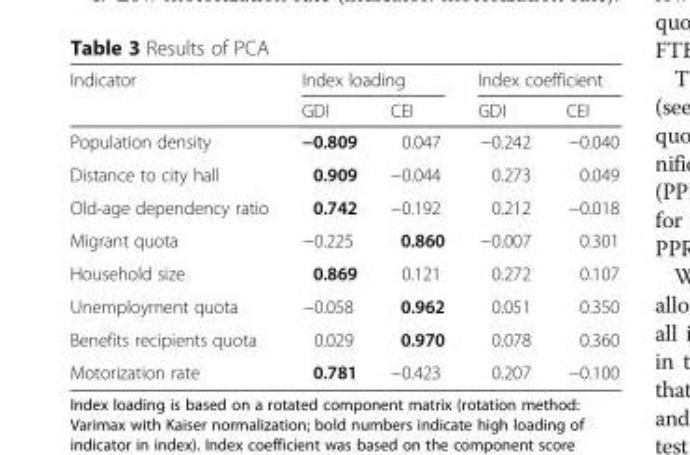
<table><thead><tr><td rowspan="2">Indicator</td><td colspan="2">Index loading</td><td colspan="2">Index coefficient</td></tr><tr><td>GDI</td><td>CEI</td><td>GDI</td><td>CEI</td></tr></thead><tbody><tr><td>Population density</td><td>−0.809</td><td>0.047</td><td>−0.242</td><td>−0.040</td></tr><tr><td>Distance to city hall</td><td>0.909</td><td>−0.044</td><td>0.273</td><td>0.049</td></tr><tr><td>Old-age dependency ratio</td><td>0.742</td><td>−0.192</td><td>0.212</td><td>−0.018</td></tr><tr><td>Migrant quota</td><td>−0.225</td><td>0.860</td><td>−0.007</td><td>0.301</td></tr><tr><td>Household size</td><td>0.869</td><td>0.121</td><td>0.272</td><td>0.107</td></tr><tr><td>Unemployment quota</td><td>−0.058</td><td>0.962</td><td>0.051</td><td>0.350</td></tr><tr><td>Benefits recipients quota</td><td>0.029</td><td>0.970</td><td>0.078</td><td>0.360</td></tr><tr><td>Motorization rate</td><td>0.781</td><td>−0.423</td><td>0.207</td><td>−0.100</td></tr></tbody></table>